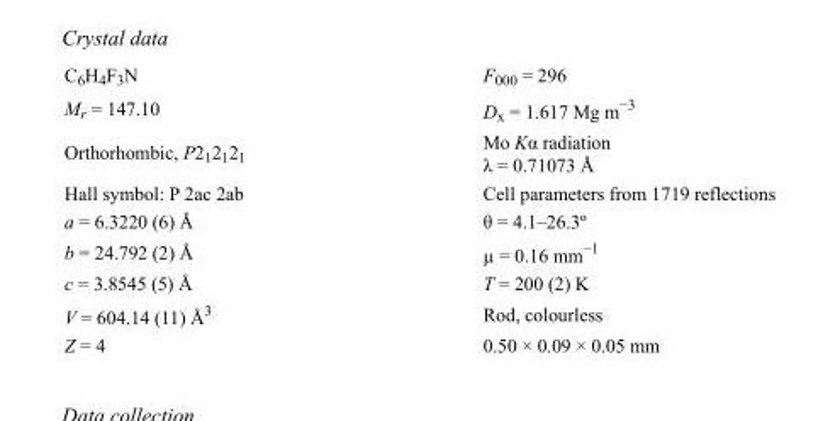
<table><tbody><tr><td>C<sub>6</sub>H<sub>4</sub>F<sub>3</sub>N</td><td>F000 = 296</td></tr><tr><td>M<sub>r</sub> = 147.10</td><td>D<sub>x</sub> = 1.617 Mg m<sup>−3</sup></td></tr><tr><td>Orthorhombic, P2<sub>1</sub>2<sub>1</sub>2<sub>1</sub></td><td>Mo Kα radiation λ = 0.71073 Å</td></tr><tr><td>Hall symbol: P 2ac 2ab</td><td>Cell parameters from 1719 reflections</td></tr><tr><td>a = 6.3220 (6) Å</td><td>θ = 4.1–26.3º</td></tr><tr><td>b = 24.792 (2) Å</td><td>µ = 0.16 mm<sup>−1</sup></td></tr><tr><td>c = 3.8545 (5) Å</td><td>T = 200 (2) K</td></tr><tr><td>V = 604.14 (11) Å<sup>3</sup></td><td>Rod, colourless</td></tr><tr><td>Z = 4</td><td>0.50 × 0.09 × 0.05 mm</td></tr></tbody></table>